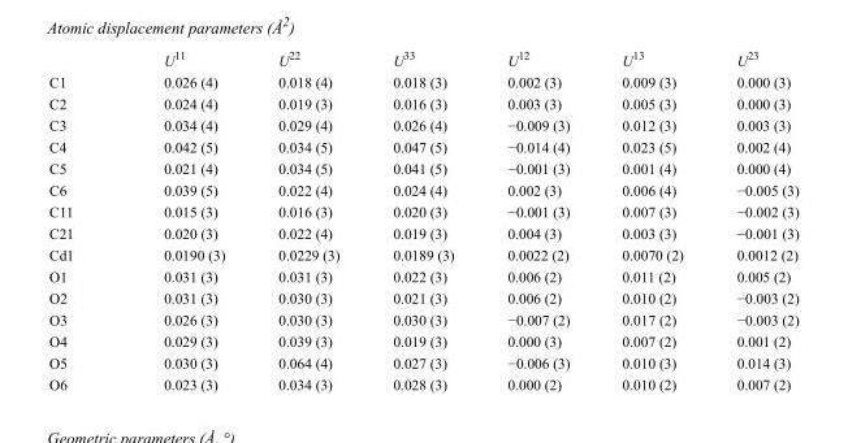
<table><thead><tr><td></td><td>U<sup>11</sup></td><td>U<sup>22</sup></td><td>U<sup>33</sup></td><td>U<sup>12</sup></td><td>U<sup>13</sup></td><td>U<sup>23</sup></td></tr></thead><tbody><tr><td>C1</td><td>0.026 (4)</td><td>0.018 (4)</td><td>0.018 (3)</td><td>0.002 (3)</td><td>0.009 (3)</td><td>0.000 (3)</td></tr><tr><td>C2</td><td>0.024 (4)</td><td>0.019 (3)</td><td>0.016 (3)</td><td>0.003 (3)</td><td>0.005 (3)</td><td>0.000 (3)</td></tr><tr><td>C3</td><td>0.034 (4)</td><td>0.029 (4)</td><td>0.026 (4)</td><td>−0.009 (3)</td><td>0.012 (3)</td><td>0.003 (3)</td></tr><tr><td>C4</td><td>0.042 (5)</td><td>0.034 (5)</td><td>0.047 (5)</td><td>−0.014 (4)</td><td>0.023 (5)</td><td>0.002 (4)</td></tr><tr><td>C5</td><td>0.021 (4)</td><td>0.034 (5)</td><td>0.041 (5)</td><td>−0.001 (3)</td><td>0.001 (4)</td><td>0.000 (4)</td></tr><tr><td>C6</td><td>0.039 (5)</td><td>0.022 (4)</td><td>0.024 (4)</td><td>0.002 (3)</td><td>0.006 (4)</td><td>−0.005 (3)</td></tr><tr><td>C11</td><td>0.015 (3)</td><td>0.016 (3)</td><td>0.020 (3)</td><td>−0.001 (3)</td><td>0.007 (3)</td><td>−0.002 (3)</td></tr><tr><td>C21</td><td>0.020 (3)</td><td>0.022 (4)</td><td>0.019 (3)</td><td>0.004 (3)</td><td>0.003 (3)</td><td>−0.001 (3)</td></tr><tr><td>Cd1</td><td>0.0190 (3)</td><td>0.0229 (3)</td><td>0.0189 (3)</td><td>0.0022 (2)</td><td>0.0070 (2)</td><td>0.0012 (2)</td></tr><tr><td>O1</td><td>0.031 (3)</td><td>0.031 (3)</td><td>0.022 (3)</td><td>0.006 (2)</td><td>0.011 (2)</td><td>0.005 (2)</td></tr><tr><td>O2</td><td>0.031 (3)</td><td>0.030 (3)</td><td>0.021 (3)</td><td>0.006 (2)</td><td>0.010 (2)</td><td>−0.003 (2)</td></tr><tr><td>O3</td><td>0.026 (3)</td><td>0.030 (3)</td><td>0.030 (3)</td><td>−0.007 (2)</td><td>0.017 (2)</td><td>−0.003 (2)</td></tr><tr><td>O4</td><td>0.029 (3)</td><td>0.039 (3)</td><td>0.019 (3)</td><td>0.000 (3)</td><td>0.007 (2)</td><td>0.001 (2)</td></tr><tr><td>O5</td><td>0.030 (3)</td><td>0.064 (4)</td><td>0.027 (3)</td><td>−0.006 (3)</td><td>0.010 (3)</td><td>0.014 (3)</td></tr><tr><td>O6</td><td>0.023 (3)</td><td>0.034 (3)</td><td>0.028 (3)</td><td>0.000 (2)</td><td>0.010 (2)</td><td>0.007 (2)</td></tr></tbody></table>